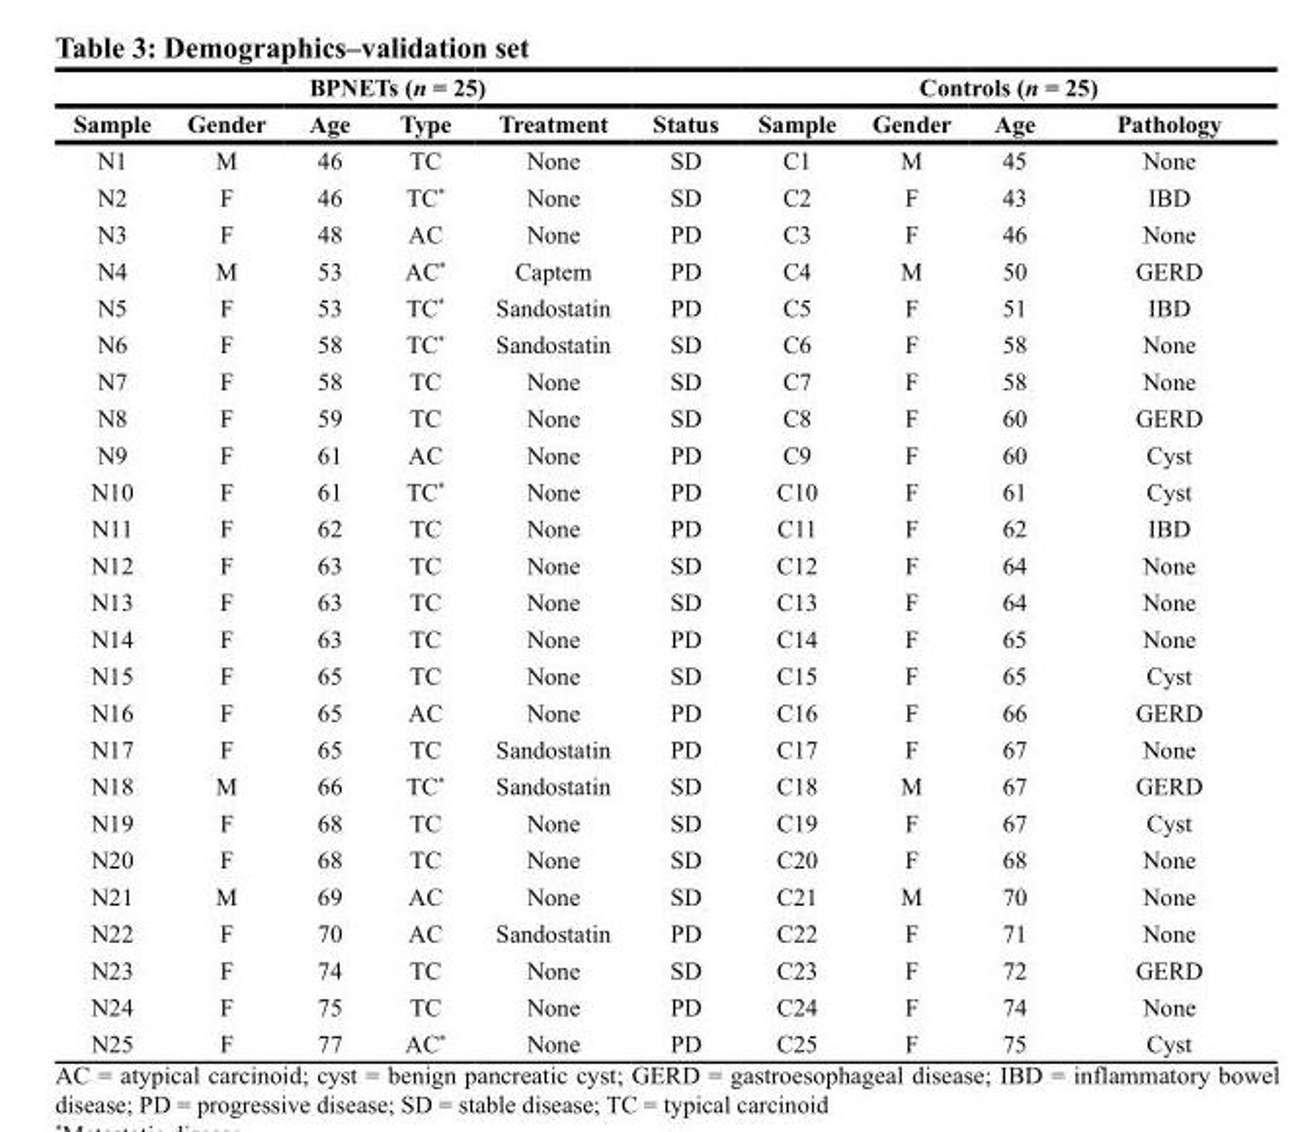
<table><thead><tr><td colspan="6">BPNETs (n = 25)</td><td colspan="4">Controls (n = 25)</td></tr><tr><td>Sample</td><td>Gender</td><td>Age</td><td>Type</td><td>Treatment</td><td>Status</td><td>Sample</td><td>Gender</td><td>Age</td><td>Pathology</td></tr></thead><tbody><tr><td>N1</td><td>M</td><td>46</td><td>TC</td><td>None</td><td>SD</td><td>C1</td><td>M</td><td>45</td><td>None</td></tr><tr><td>N2</td><td>F</td><td>46</td><td>TC*</td><td>None</td><td>SD</td><td>C2</td><td>F</td><td>43</td><td>IBD</td></tr><tr><td>N3</td><td>F</td><td>48</td><td>AC</td><td>None</td><td>PD</td><td>C3</td><td>F</td><td>46</td><td>None</td></tr><tr><td>N4</td><td>M</td><td>53</td><td>AC*</td><td>Captem</td><td>PD</td><td>C4</td><td>M</td><td>50</td><td>GERD</td></tr><tr><td>N5</td><td>F</td><td>53</td><td>TC*</td><td>Sandostatin</td><td>PD</td><td>C5</td><td>F</td><td>51</td><td>IBD</td></tr><tr><td>N6</td><td>F</td><td>58</td><td>TC*</td><td>Sandostatin</td><td>SD</td><td>C6</td><td>F</td><td>58</td><td>None</td></tr><tr><td>N7</td><td>F</td><td>58</td><td>TC</td><td>None</td><td>SD</td><td>C7</td><td>F</td><td>58</td><td>None</td></tr><tr><td>N8</td><td>F</td><td>59</td><td>TC</td><td>None</td><td>SD</td><td>C8</td><td>F</td><td>60</td><td>GERD</td></tr><tr><td>N9</td><td>F</td><td>61</td><td>AC</td><td>None</td><td>PD</td><td>C9</td><td>F</td><td>60</td><td>Cyst</td></tr><tr><td>N10</td><td>F</td><td>61</td><td>TC*</td><td>None</td><td>PD</td><td>C10</td><td>F</td><td>61</td><td>Cyst</td></tr><tr><td>N11</td><td>F</td><td>62</td><td>TC</td><td>None</td><td>PD</td><td>C11</td><td>F</td><td>62</td><td>IBD</td></tr><tr><td>N12</td><td>F</td><td>63</td><td>TC</td><td>None</td><td>SD</td><td>C12</td><td>F</td><td>64</td><td>None</td></tr><tr><td>N13</td><td>F</td><td>63</td><td>TC</td><td>None</td><td>SD</td><td>C13</td><td>F</td><td>64</td><td>None</td></tr><tr><td>N14</td><td>F</td><td>63</td><td>TC</td><td>None</td><td>PD</td><td>C14</td><td>F</td><td>65</td><td>None</td></tr><tr><td>N15</td><td>F</td><td>65</td><td>TC</td><td>None</td><td>SD</td><td>C15</td><td>F</td><td>65</td><td>Cyst</td></tr><tr><td>N16</td><td>F</td><td>65</td><td>AC</td><td>None</td><td>PD</td><td>C16</td><td>F</td><td>66</td><td>GERD</td></tr><tr><td>N17</td><td>F</td><td>65</td><td>TC</td><td>Sandostatin</td><td>PD</td><td>C17</td><td>F</td><td>67</td><td>None</td></tr><tr><td>N18</td><td>M</td><td>66</td><td>TC*</td><td>Sandostatin</td><td>SD</td><td>C18</td><td>M</td><td>67</td><td>GERD</td></tr><tr><td>N19</td><td>F</td><td>68</td><td>TC</td><td>None</td><td>SD</td><td>C19</td><td>F</td><td>67</td><td>Cyst</td></tr><tr><td>N20</td><td>F</td><td>68</td><td>TC</td><td>None</td><td>SD</td><td>C20</td><td>F</td><td>68</td><td>None</td></tr><tr><td>N21</td><td>M</td><td>69</td><td>AC</td><td>None</td><td>SD</td><td>C21</td><td>M</td><td>70</td><td>None</td></tr><tr><td>N22</td><td>F</td><td>70</td><td>AC</td><td>Sandostatin</td><td>PD</td><td>C22</td><td>F</td><td>71</td><td>None</td></tr><tr><td>N23</td><td>F</td><td>74</td><td>TC</td><td>None</td><td>SD</td><td>C23</td><td>F</td><td>72</td><td>GERD</td></tr><tr><td>N24</td><td>F</td><td>75</td><td>TC</td><td>None</td><td>PD</td><td>C24</td><td>F</td><td>74</td><td>None</td></tr><tr><td>N25</td><td>F</td><td>77</td><td>AC*</td><td>None</td><td>PD</td><td>C25</td><td>F</td><td>75</td><td>Cyst</td></tr></tbody></table>